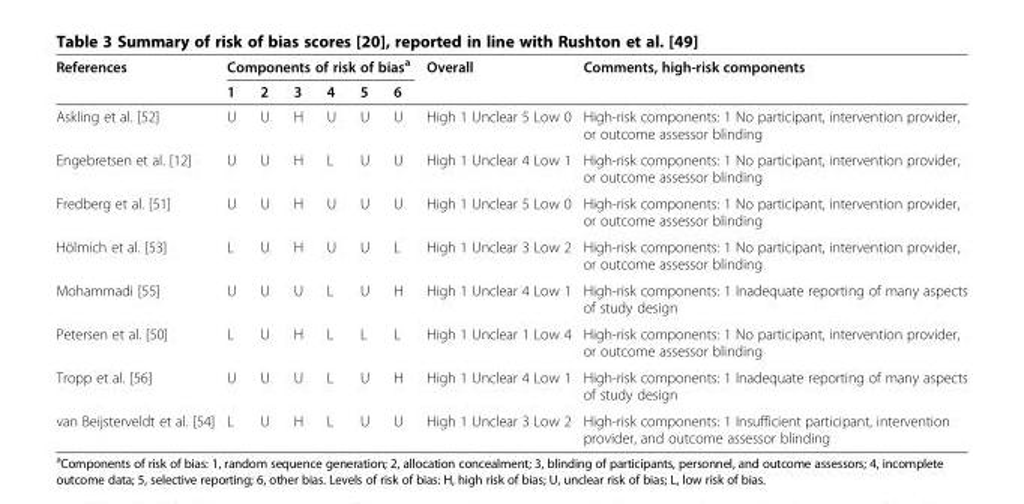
<table><thead><tr><td rowspan="2">References</td><td colspan="6">Components of risk of bias<sup>a</sup></td><td rowspan="2">Overall</td><td rowspan="2">Comments, high-risk components</td></tr><tr><td>1</td><td>2</td><td>3</td><td>4</td><td>5</td><td>6</td></tr></thead><tbody><tr><td>Askling et al. [52]</td><td>U</td><td>U</td><td>H</td><td>U</td><td>U</td><td>U</td><td>High 1 Unclear 5 Low 0</td><td>High-risk components: 1 No participant, intervention provider, or outcome assessor blinding</td></tr><tr><td>Engebretsen et al. [12]</td><td>U</td><td>U</td><td>H</td><td>L</td><td>U</td><td>U</td><td>High 1 Unclear 4 Low 1</td><td>High-risk components: 1 No participant, intervention provider, or outcome assessor blinding</td></tr><tr><td>Fredberg et al. [51]</td><td>U</td><td>U</td><td>H</td><td>U</td><td>U</td><td>U</td><td>High 1 Unclear 5 Low 0</td><td>High-risk components: 1 No participant, intervention provider, or outcome assessor blinding</td></tr><tr><td>Hölmich et al. [53]</td><td>L</td><td>U</td><td>H</td><td>U</td><td>U</td><td>L</td><td>High 1 Unclear 3 Low 2</td><td>High-risk components: 1 No participant, intervention provider, or outcome assessor blinding</td></tr><tr><td>Mohammadi [55]</td><td>U</td><td>U</td><td>U</td><td>L</td><td>U</td><td>H</td><td>High 1 Unclear 4 Low 1</td><td>High-risk components: 1 Inadequate reporting of many aspects of study design</td></tr><tr><td>Petersen et al. [50]</td><td>L</td><td>U</td><td>H</td><td>L</td><td>L</td><td>L</td><td>High 1 Unclear 1 Low 4</td><td>High-risk components: 1 No participant, intervention provider, or outcome assessor blinding</td></tr><tr><td>Tropp et al. [56]</td><td>U</td><td>U</td><td>U</td><td>L</td><td>U</td><td>H</td><td>High 1 Unclear 4 Low 1</td><td>High-risk components: 1 Inadequate reporting of many aspects of study design</td></tr><tr><td>van Beijsterveldt et al. [54]</td><td>L</td><td>U</td><td>H</td><td>L</td><td>U</td><td>U</td><td>High 1 Unclear 3 Low 2</td><td>High-risk components: 1 Insufficient participant, intervention provider, and outcome assessor blinding</td></tr></tbody></table>